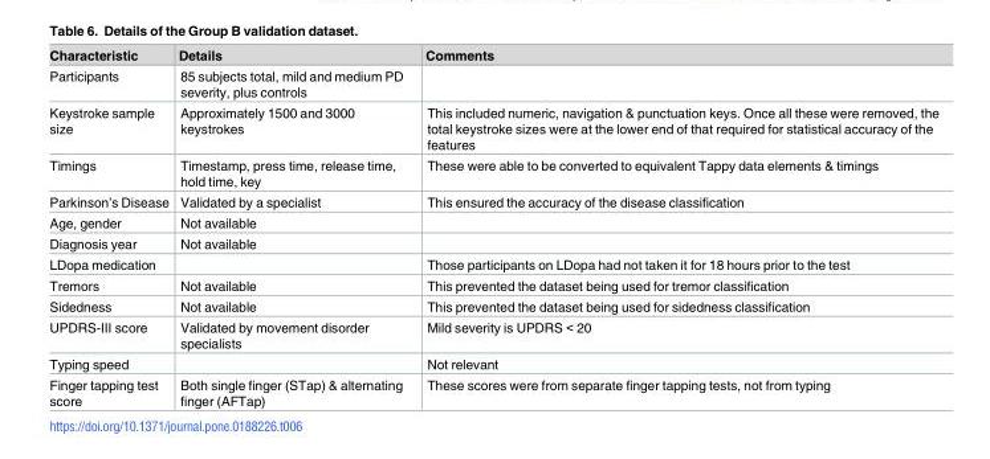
<table><thead><tr><td>Characteristic</td><td>Details</td><td>Comments</td></tr></thead><tbody><tr><td>Participants</td><td>85 subjects total, mild and medium PD severity, plus controls</td><td></td></tr><tr><td>Keystroke sample size</td><td>Approximately 1500 and 3000 keystrokes</td><td>This included numeric, navigation &amp; punctuation keys. Once all these were removed, the total keystroke sizes were at the lower end of that required for statistical accuracy of the features</td></tr><tr><td>Timings</td><td>Timestamp, press time, release time, hold time, key</td><td>These were able to be converted to equivalent Tappy data elements &amp; timings</td></tr><tr><td>Parkinson’s Disease</td><td>Validated by a specialist</td><td>This ensured the accuracy of the disease classification</td></tr><tr><td>Age, gender</td><td>Not available</td><td></td></tr><tr><td>Diagnosis year</td><td>Not available</td><td></td></tr><tr><td>LDopa medication</td><td></td><td>Those participants on LDopa had not taken it for 18 hours prior to the test</td></tr><tr><td>Tremors</td><td>Not available</td><td>This prevented the dataset being used for tremor classification</td></tr><tr><td>Sidedness</td><td>Not available</td><td>This prevented the dataset being used for sidedness classification</td></tr><tr><td>UPDRS-III score</td><td>Validated by movement disorder specialists</td><td>Mild severity is UPDRS &lt; 20</td></tr><tr><td>Typing speed</td><td></td><td>Not relevant</td></tr><tr><td>Finger tapping test score</td><td>Both single finger (STap) &amp; alternating finger (AFTap)</td><td>These scores were from separate finger tapping tests, not from typing</td></tr></tbody></table>